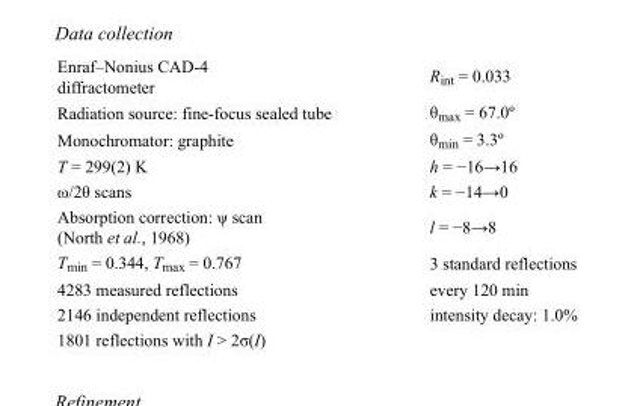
<table><tbody><tr><td>Enraf–Nonius CAD-4 diffractometer</td><td>R<sub>int</sub> = 0.033</td></tr><tr><td>Radiation source: fine-focus sealed tube</td><td>θ<sub>max</sub> = 67.0º</td></tr><tr><td>Monochromator: graphite</td><td>θ<sub>min</sub> = 3.3º</td></tr><tr><td>T = 299(2) K</td><td>h = −16→16</td></tr><tr><td>ω/2θ scans</td><td>k = −14→0</td></tr><tr><td>Absorption correction: ψ scan (North et al., 1968)</td><td>l = −8→8</td></tr><tr><td>T<sub>min</sub> = 0.344, T<sub>max</sub> = 0.767</td><td>3 standard reflections</td></tr><tr><td>4283 measured reflections</td><td>every 120 min</td></tr><tr><td>2146 independent reflections</td><td>intensity decay: 1.0%</td></tr><tr><td>1801 reflections with I &gt; 2σ(I)</td><td></td></tr></tbody></table>